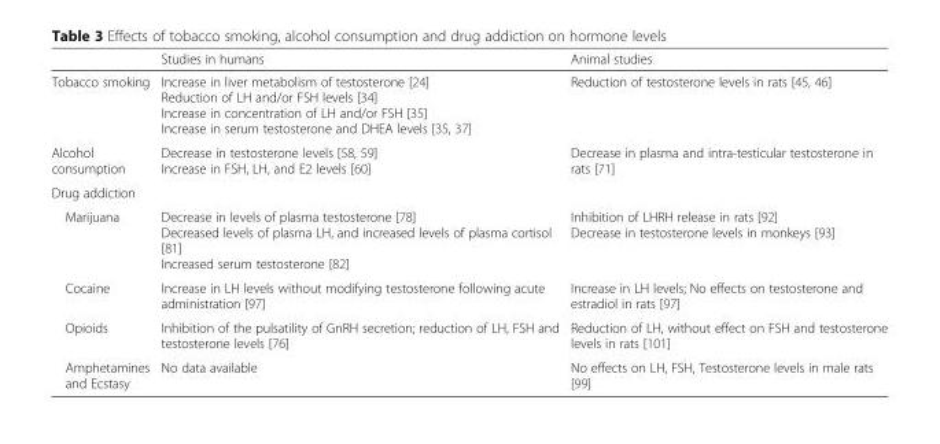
<table><thead><tr><td></td><td>Studies in humans</td><td>Animal studies</td></tr></thead><tbody><tr><td>Tobacco smoking</td><td>Increase in liver metabolism of testosterone [24] Reduction of LH and/or FSH levels [34] Increase in concentration of LH and/or FSH [35] Increase in serum testosterone and DHEA levels [35, 37]</td><td>Reduction of testosterone levels in rats [45, 46]</td></tr><tr><td>Alcohol consumption</td><td>Decrease in testosterone levels [58, 59] Increase in FSH, LH, and E2 levels [60]</td><td>Decrease in plasma and intra-testicular testosterone in rats [71]</td></tr><tr><td colspan="3">Drug addiction</td></tr><tr><td>Marijuana</td><td>Decrease in levels of plasma testosterone [78] Decreased levels of plasma LH, and increased levels of plasma cortisol [81] Increased serum testosterone [82]</td><td>Inhibition of LHRH release in rats [92] Decrease in testosterone levels in monkeys [93]</td></tr><tr><td>Cocaine</td><td>Increase in LH levels without modifying testosterone following acute administration [97]</td><td>Increase in LH levels; No effects on testosterone and estradiol in rats [97]</td></tr><tr><td>Opioids</td><td>Inhibition of the pulsatility of GnRH secretion; reduction of LH, FSH and testosterone levels [76]</td><td>Reduction of LH, without effect on FSH and testosterone levels in rats [101]</td></tr><tr><td>Amphetamines and Ecstasy</td><td>No data available</td><td>No effects on LH, FSH, Testosterone levels in male rats [99]</td></tr></tbody></table>